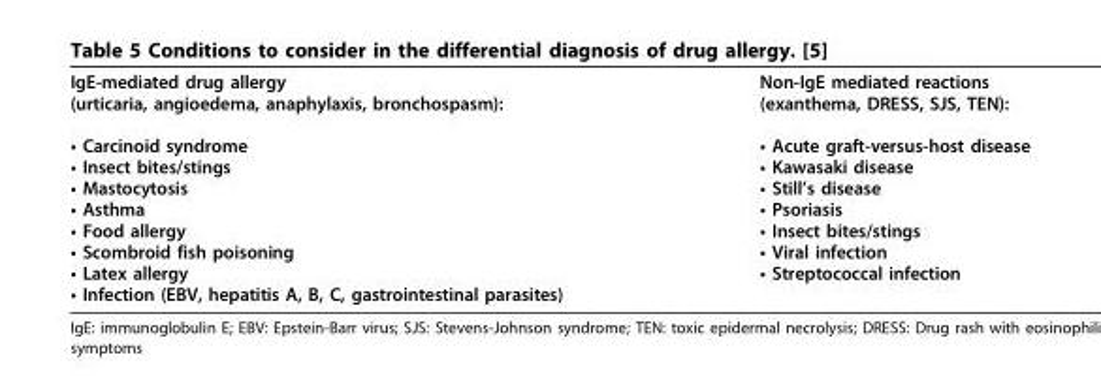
<table><tbody><tr><td>IgE-mediated drug allergy (urticaria, angioedema, anaphylaxis, bronchospasm): • Carcinoid syndrome • Insect bites/stings • Mastocytosis • Asthma • Food allergy • Scombroid fish poisoning • Latex allergy • Infection (EBV, hepatitis A, B, C, gastrointestinal parasites)</td><td>Non-IgE mediated reactions (exanthema, DRESS, SJS, TEN): • Acute graft-versus-host disease • Kawasaki disease • Still’s disease • Psoriasis • Insect bites/stings • Viral infection • Streptococcal infection</td></tr></tbody></table>